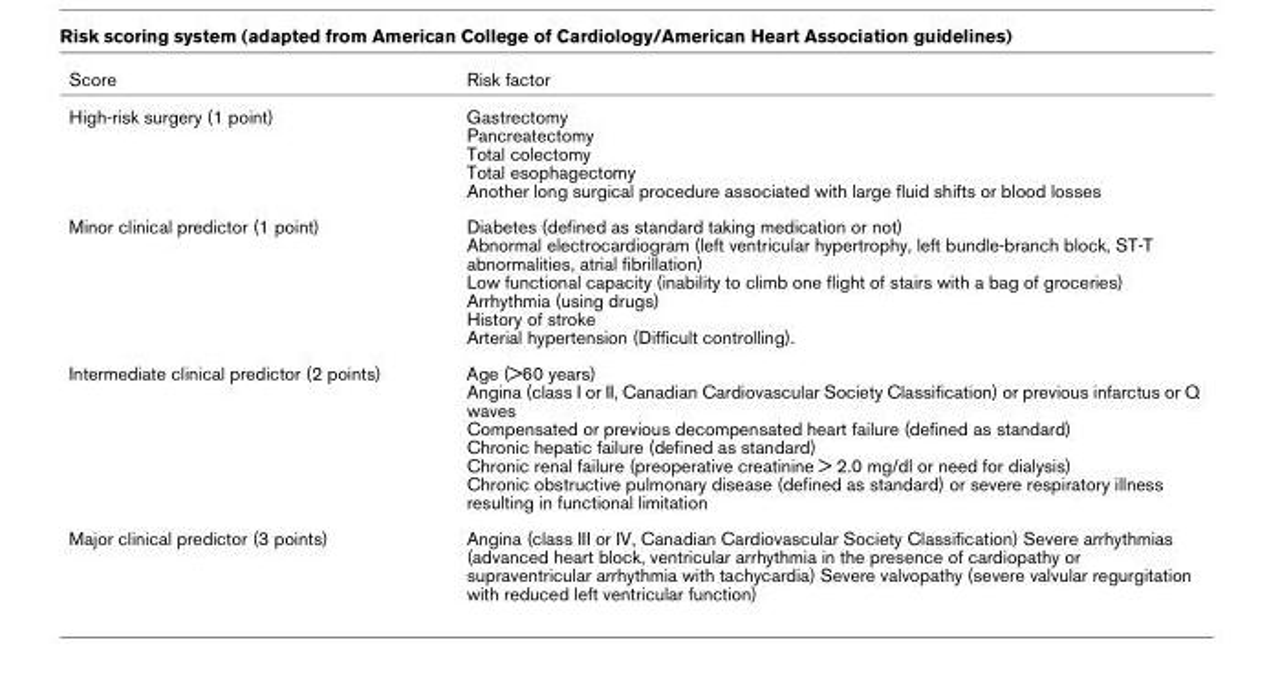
<table><thead><tr><td>Score</td><td>Risk factor</td></tr></thead><tbody><tr><td>High-risk surgery (1 point)</td><td>Gastrectomy Pancreatectomy Total colectomy Total esophagectomy Another long surgical procedure associated with large fluid shifts or blood losses</td></tr><tr><td>Minor clinical predictor (1 point)</td><td>Diabetes (defined as standard taking medication or not) Abnormal electrocardiogram (left ventricular hypertrophy, left bundle-branch block, ST-T abnormalities, atrial fibrillation) Low functional capacity (inability to climb one flight of stairs with a bag of groceries) Arrhythmia (using drugs) History of stroke Arterial hypertension (Difficult controlling).</td></tr><tr><td>Intermediate clinical predictor (2 points)</td><td>Age (&gt;60 years) Angina (class I or II, Canadian Cardiovascular Society Classification) or previous infarctus or Q waves Compensated or previous decompensated heart failure (defined as standard) Chronic hepatic failure (defined as standard) Chronic renal failure (preoperative creatinine &gt; 2.0 mg/dl or need for dialysis) Chronic obstructive pulmonary disease (defined as standard) or severe respiratory illness resulting in functional limitation</td></tr><tr><td>Major clinical predictor (3 points)</td><td>Angina (class III or IV, Canadian Cardiovascular Society Classification) Severe arrhythmias (advanced heart block, ventricular arrhythmia in the presence of cardiopathy or supraventricular arrhythmia with tachycardia) Severe valvopathy (severe valvular regurgitation with reduced left ventricular function)</td></tr></tbody></table>